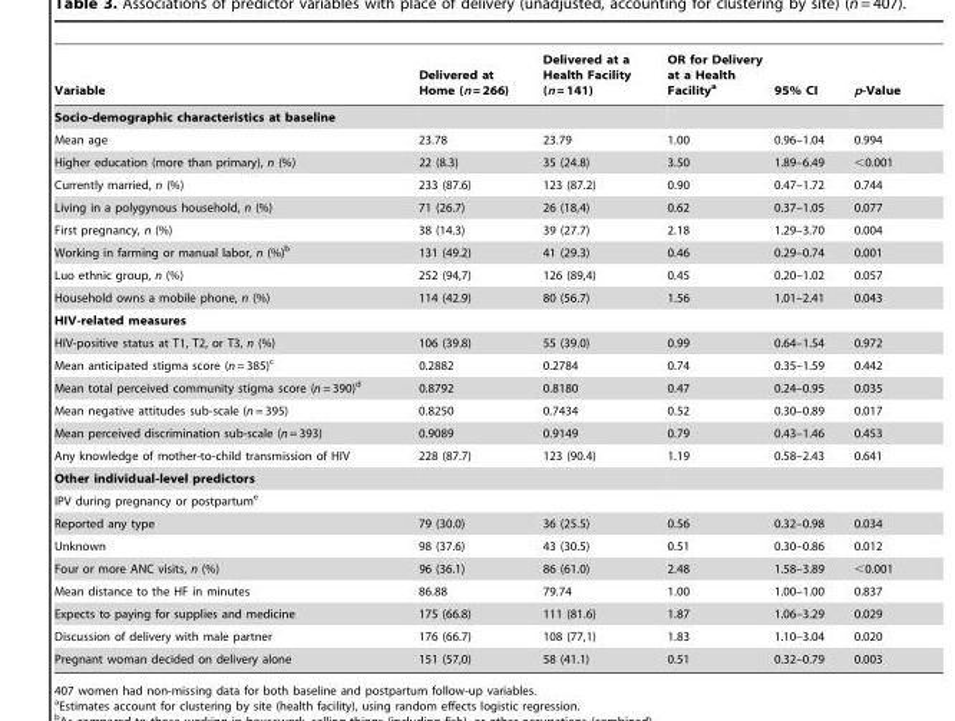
<table><thead><tr><td>Variable</td><td>Delivered at Home (n = 266)</td><td>Delivered at a Health Facility (n = 141)</td><td>OR for Delivery at a Health Facility<sup>a</sup></td><td>95% CI</td><td>p-Value</td></tr></thead><tbody><tr><td colspan="6">Socio-demographic characteristics at baseline</td></tr><tr><td>Mean age</td><td>23.78</td><td>23.79</td><td>1.00</td><td>0.96–1.04</td><td>0.994</td></tr><tr><td>Higher education (more than primary), n (%)</td><td>22 (8.3)</td><td>35 (24.8)</td><td>3.50</td><td>1.89–6.49</td><td>&lt;0.001</td></tr><tr><td>Currently married, n (%)</td><td>233 (87.6)</td><td>123 (87.2)</td><td>0.90</td><td>0.47–1.72</td><td>0.744</td></tr><tr><td>Living in a polygynous household, n (%)</td><td>71 (26.7)</td><td>26 (18,4)</td><td>0.62</td><td>0.37–1.05</td><td>0.077</td></tr><tr><td>First pregnancy, n (%)</td><td>38 (14.3)</td><td>39 (27.7)</td><td>2.18</td><td>1.29–3.70</td><td>0.004</td></tr><tr><td>Working in farming or manual labor, n (%)<sup>b</sup></td><td>131 (49.2)</td><td>41 (29.3)</td><td>0.46</td><td>0.29–0.74</td><td>0.001</td></tr><tr><td>Luo ethnic group, n (%)</td><td>252 (94,7)</td><td>126 (89,4)</td><td>0.45</td><td>0.20–1.02</td><td>0.057</td></tr><tr><td>Household owns a mobile phone, n (%)</td><td>114 (42.9)</td><td>80 (56.7)</td><td>1.56</td><td>1.01–2.41</td><td>0.043</td></tr><tr><td colspan="6">HIV-related measures</td></tr><tr><td>HIV-positive status at T1, T2, or T3, n (%)</td><td>106 (39.8)</td><td>55 (39.0)</td><td>0.99</td><td>0.64–1.54</td><td>0.972</td></tr><tr><td>Mean anticipated stigma score (n = 385)<sup>c</sup></td><td>0.2882</td><td>0.2784</td><td>0.74</td><td>0.35–1.59</td><td>0.442</td></tr><tr><td>Mean total perceived community stigma score (n = 390)<sup>d</sup></td><td>0.8792</td><td>0.8180</td><td>0.47</td><td>0.24–0.95</td><td>0.035</td></tr><tr><td>Mean negative attitudes sub-scale (n = 395)</td><td>0.8250</td><td>0.7434</td><td>0.52</td><td>0.30–0.89</td><td>0.017</td></tr><tr><td>Mean perceived discrimination sub-scale (n = 393)</td><td>0.9089</td><td>0.9149</td><td>0.79</td><td>0.43–1.46</td><td>0.453</td></tr><tr><td>Any knowledge of mother-to-child transmission of HIV</td><td>228 (87.7)</td><td>123 (90.4)</td><td>1.19</td><td>0.58–2.43</td><td>0.641</td></tr><tr><td colspan="6">Other individual-level predictors</td></tr><tr><td colspan="6">IPV during pregnancy or postpartum<sup>e</sup></td></tr><tr><td>Reported any type</td><td>79 (30.0)</td><td>36 (25.5)</td><td>0.56</td><td>0.32–0.98</td><td>0.034</td></tr><tr><td>Unknown</td><td>98 (37.6)</td><td>43 (30.5)</td><td>0.51</td><td>0.30–0.86</td><td>0.012</td></tr><tr><td>Four or more ANC visits, n (%)</td><td>96 (36.1)</td><td>86 (61.0)</td><td>2.48</td><td>1.58–3.89</td><td>&lt;0.001</td></tr><tr><td>Mean distance to the HF in minutes</td><td>86.88</td><td>79.74</td><td>1.00</td><td>1.00–1.00</td><td>0.837</td></tr><tr><td>Expects to paying for supplies and medicine</td><td>175 (66.8)</td><td>111 (81.6)</td><td>1.87</td><td>1.06–3.29</td><td>0.029</td></tr><tr><td>Discussion of delivery with male partner</td><td>176 (66.7)</td><td>108 (77,1)</td><td>1.83</td><td>1.10–3.04</td><td>0.020</td></tr><tr><td>Pregnant woman decided on delivery alone</td><td>151 (57,0)</td><td>58 (41.1)</td><td>0.51</td><td>0.32–0.79</td><td>0.003</td></tr></tbody></table>